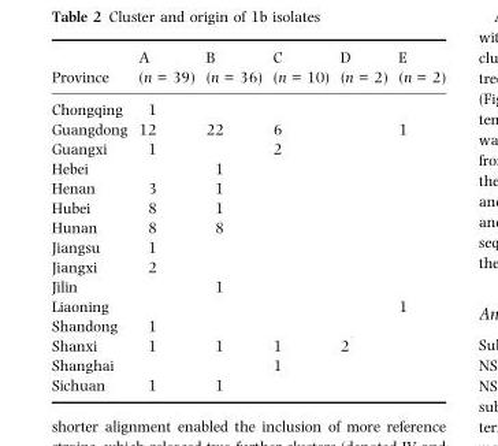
<table><thead><tr><td>Province</td><td>A (n = 39)</td><td>B (n = 36)</td><td>C (n = 10)</td><td>D (n = 2)</td><td>E (n = 2)</td></tr></thead><tbody><tr><td>Chongqing</td><td>1</td><td></td><td></td><td></td><td></td></tr><tr><td>Guangdong</td><td>12</td><td>22</td><td>6</td><td></td><td>1</td></tr><tr><td>Guangxi</td><td>1</td><td></td><td>2</td><td></td><td></td></tr><tr><td>Hebei</td><td></td><td>1</td><td></td><td></td><td></td></tr><tr><td>Henan</td><td>3</td><td>1</td><td></td><td></td><td></td></tr><tr><td>Hubei</td><td>8</td><td>1</td><td></td><td></td><td></td></tr><tr><td>Hunan</td><td>8</td><td>8</td><td></td><td></td><td></td></tr><tr><td>Jiangsu</td><td>1</td><td></td><td></td><td></td><td></td></tr><tr><td>Jiangxi</td><td>2</td><td></td><td></td><td></td><td></td></tr><tr><td>Jilin</td><td></td><td>1</td><td></td><td></td><td></td></tr><tr><td>Liaoning</td><td></td><td></td><td></td><td></td><td>1</td></tr><tr><td>Shandong</td><td>1</td><td></td><td></td><td></td><td></td></tr><tr><td>Shanxi</td><td>1</td><td>1</td><td>1</td><td>2</td><td></td></tr><tr><td>Shanghai</td><td></td><td></td><td>1</td><td></td><td></td></tr><tr><td>Sichuan</td><td>1</td><td>1</td><td></td><td></td><td></td></tr></tbody></table>